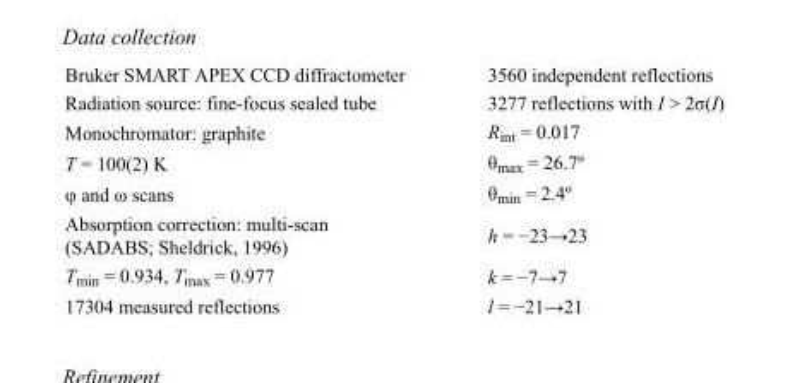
<table><tbody><tr><td>Bruker SMART APEX CCD diffractometer</td><td>3560 independent reflections</td></tr><tr><td>Radiation source: fine-focus sealed tube</td><td>3277 reflections with I &gt; 2σ(I)</td></tr><tr><td>Monochromator: graphite</td><td>R<sub>int</sub> = 0.017</td></tr><tr><td>T = 100(2) K</td><td>θ<sub>max</sub> = 26.7º</td></tr><tr><td>φ and ω scans</td><td>θ<sub>min</sub> = 2.4º</td></tr><tr><td>Absorption correction: multi-scan (SADABS; Sheldrick, 1996)</td><td>h = −23→23</td></tr><tr><td>T<sub>min</sub> = 0.934, T<sub>max</sub> = 0.977</td><td>k = −7→7</td></tr><tr><td>17304 measured reflections</td><td>l = −21→21</td></tr></tbody></table>